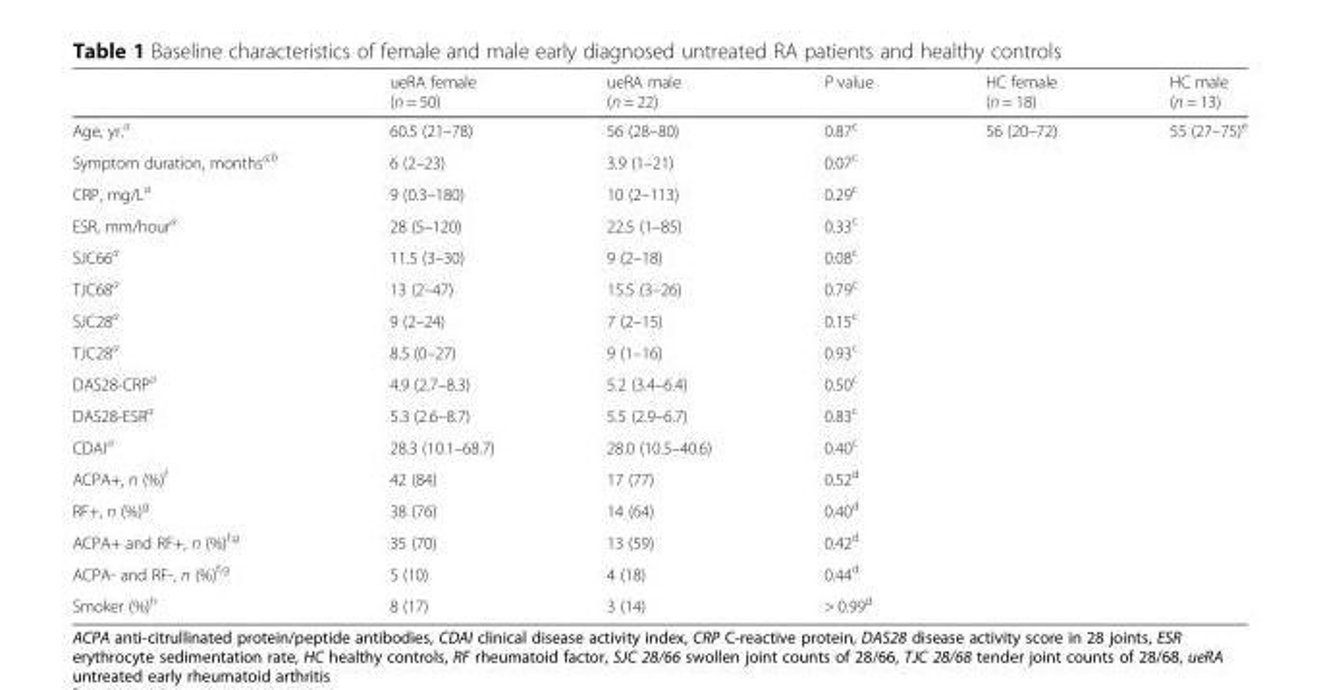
<table><thead><tr><td></td><td>ueRA female (n = 50)</td><td>ueRA male (n = 22)</td><td>P value</td><td>HC female (n = 18)</td><td>HC male (n = 13)</td></tr></thead><tbody><tr><td>Age, yr.<sup>a</sup></td><td>60.5 (21–78)</td><td>56 (28–80)</td><td>0.87<sup>c</sup></td><td>56 (20–72)</td><td>55 (27–75)<sup>e</sup></td></tr><tr><td>Symptom duration, months<sup>a,b</sup></td><td>6 (2–23)</td><td>3.9 (1–21)</td><td>0.07<sup>c</sup></td><td></td><td></td></tr><tr><td>CRP, mg/L<sup>a</sup></td><td>9 (0.3–180)</td><td>10 (2–113)</td><td>0.29<sup>c</sup></td><td></td><td></td></tr><tr><td>ESR, mm/hour<sup>a</sup></td><td>28 (5–120)</td><td>22.5 (1–85)</td><td>0.33<sup>c</sup></td><td></td><td></td></tr><tr><td>SJC66<sup>a</sup></td><td>11.5 (3–30)</td><td>9 (2–18)</td><td>0.08<sup>c</sup></td><td></td><td></td></tr><tr><td>TJC68<sup>a</sup></td><td>13 (2–47)</td><td>15.5 (3–26)</td><td>0.79<sup>c</sup></td><td></td><td></td></tr><tr><td>SJC28<sup>a</sup></td><td>9 (2–24)</td><td>7 (2–15)</td><td>0.15<sup>c</sup></td><td></td><td></td></tr><tr><td>TJC28<sup>a</sup></td><td>8.5 (0–27)</td><td>9 (1–16)</td><td>0.93<sup>c</sup></td><td></td><td></td></tr><tr><td>DAS28-CRP<sup>a</sup></td><td>4.9 (2.7–8.3)</td><td>5.2 (3.4–6.4)</td><td>0.50<sup>c</sup></td><td></td><td></td></tr><tr><td>DAS28-ESR<sup>a</sup></td><td>5.3 (2.6–8.7)</td><td>5.5 (2.9–6.7)</td><td>0.83<sup>c</sup></td><td></td><td></td></tr><tr><td>CDAI<sup>a</sup></td><td>28.3 (10.1–68.7)</td><td>28.0 (10.5–40.6)</td><td>0.40<sup>c</sup></td><td></td><td></td></tr><tr><td>ACPA+, n (%)<sup>f</sup></td><td>42 (84)</td><td>17 (77)</td><td>0.52<sup>d</sup></td><td rowspan="4"></td><td></td></tr><tr><td>RF+, n (%)<sup>g</sup></td><td>38 (76)</td><td>14 (64)</td><td>0.40<sup>d</sup></td><td></td></tr><tr><td>ACPA+ and RF+, n (%)<sup>f,g</sup></td><td>35 (70)</td><td>13 (59)</td><td>0.42<sup>d</sup></td><td></td></tr><tr><td>ACPA- and RF-, n (%)<sup>f,g</sup></td><td>5 (10)</td><td>4 (18)</td><td>0.44<sup>d</sup></td><td></td></tr><tr><td>Smoker (%)<sup>h</sup></td><td>8 (17)</td><td>3 (14)</td><td>&gt; 0.99<sup>d</sup></td><td></td><td></td></tr></tbody></table>